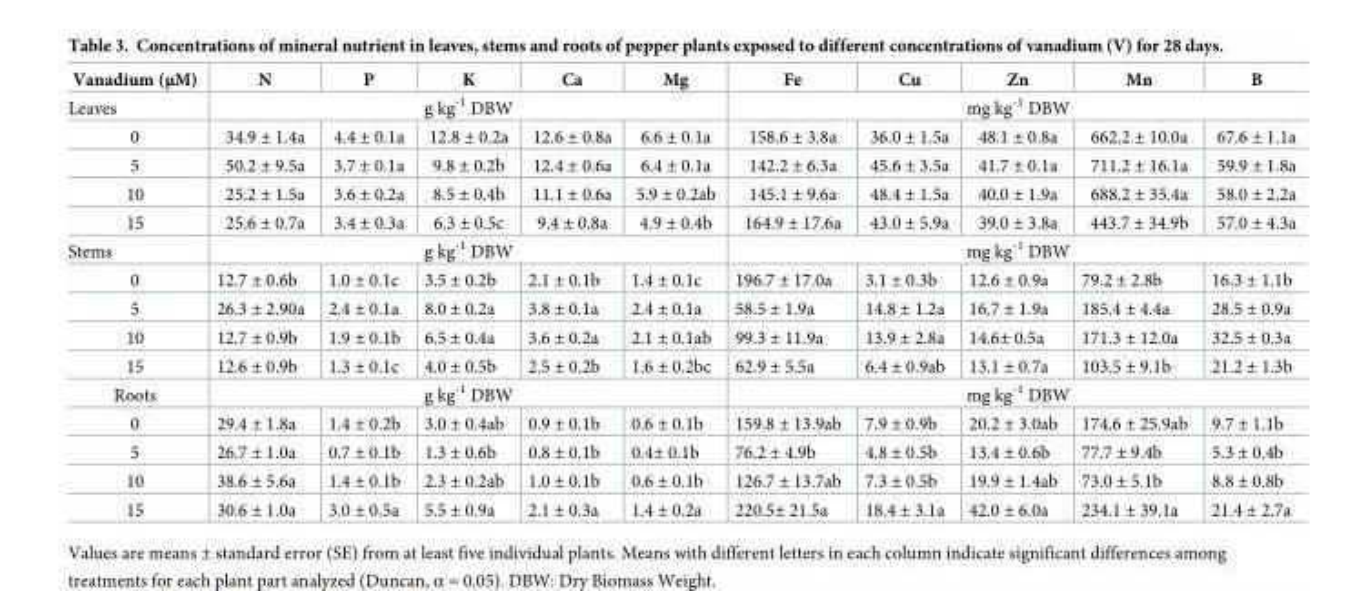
<table><thead><tr><td>Vanadium (μM)</td><td>N</td><td>P</td><td>K</td><td>Ca</td><td>Mg</td><td>Fe</td><td>Cu</td><td>Zn</td><td>Mn</td><td>B</td></tr></thead><tbody><tr><td>Leaves</td><td colspan="5">g kg<sup>-1</sup> DBW</td><td colspan="5">mg kg<sup>-1</sup> DBW</td></tr><tr><td>0</td><td>34.9 ± 1.4a</td><td>4.4 ± 0.1a</td><td>12.8 ± 0.2a</td><td>12.6 ± 0.8a</td><td>6.6 ± 0.1a</td><td>158.6 ± 3.8a</td><td>36.0 ± 1.5a</td><td>48.1 ± 0.8a</td><td>662.2 ± 10.0a</td><td>67.6 ± 1.1a</td></tr><tr><td>5</td><td>50.2 ± 9.5a</td><td>3.7 ± 0.1a</td><td>9.8 ± 0.2b</td><td>12.4 ± 0.6a</td><td>6.4 ± 0.1a</td><td>142.2 ± 6.3a</td><td>45.6 ± 3.5a</td><td>41.7 ± 0.1a</td><td>711.2 ± 16.1a</td><td>59.9 ± 1.8a</td></tr><tr><td>10</td><td>25.2 ± 1.5a</td><td>3.6 ± 0.2a</td><td>8.5 ± 0.4b</td><td>11.1 ± 0.6a</td><td>5.9 ± 0.2ab</td><td>145.1 ± 9.6a</td><td>48.4 ± 1.5a</td><td>40.0 ± 1.9a</td><td>688.2 ± 35.4a</td><td>58.0 ± 2.2a</td></tr><tr><td>15</td><td>25.6 ± 0.7a</td><td>3.4 ± 0.3a</td><td>6.3 ± 0.5c</td><td>9.4 ± 0.8a</td><td>4.9 ± 0.4b</td><td>164.9 ± 17.6a</td><td>43.0 ± 5.9a</td><td>39.0 ± 3.8a</td><td>443.7 ± 34.9b</td><td>57.0 ± 4.3a</td></tr><tr><td>Stems</td><td colspan="5">g kg<sup>-1</sup> DBW</td><td colspan="5">mg kg<sup>-1</sup> DBW</td></tr><tr><td>0</td><td>12.7 ± 0.6b</td><td>1.0 ± 0.1c</td><td>3.5 ± 0.2b</td><td>2.1 ± 0.1b</td><td>1.4 ± 0.1c</td><td>196.7 ± 17.0a</td><td>3.1 ± 0.3b</td><td>12.6 ± 0.9a</td><td>79.2 ± 2.8b</td><td>16.3 ± 1.1b</td></tr><tr><td>5</td><td>26.3 ± 2.90a</td><td>2.4 ± 0.1a</td><td>8.0 ± 0.2a</td><td>3.8 ± 0.1a</td><td>2.4 ± 0.1a</td><td>58.5 ± 1.9a</td><td>14.8 ± 1.2a</td><td>16.7 ± 1.9a</td><td>185.4 ± 4.4a</td><td>28.5 ± 0.9a</td></tr><tr><td>10</td><td>12.7 ± 0.9b</td><td>1.9 ± 0.1b</td><td>6.5 ± 0.4a</td><td>3.6 ± 0.2a</td><td>2.1 ± 0.1ab</td><td>99.3 ± 11.9a</td><td>13.9 ± 2.8a</td><td>14.6± 0.5a</td><td>171.3 ± 12.0a</td><td>32.5 ± 0.3a</td></tr><tr><td>15</td><td>12.6 ± 0.9b</td><td>1.3 ± 0.1c</td><td>4.0 ± 0.5b</td><td>2.5 ± 0.2b</td><td>1.6 ± 0.2bc</td><td>62.9 ± 5.5a</td><td>6.4 ± 0.9ab</td><td>13.1 ± 0.7a</td><td>103.5 ± 9.1b</td><td>21.2 ± 1.3b</td></tr><tr><td>Roots</td><td colspan="5">g kg<sup>-1</sup> DBW</td><td colspan="5">mg kg<sup>-1</sup> DBW</td></tr><tr><td>0</td><td>29.4 ± 1.8a</td><td>1.4 ± 0.2b</td><td>3.0 ± 0.4ab</td><td>0.9 ± 0.1b</td><td>0.6 ± 0.1b</td><td>159.8 ± 13.9ab</td><td>7.9 ± 0.9b</td><td>20.2 ± 3.0ab</td><td>174.6 ± 25.9ab</td><td>9.7 ± 1.1b</td></tr><tr><td>5</td><td>26.7 ± 1.0a</td><td>0.7 ± 0.1b</td><td>1.3 ± 0.6b</td><td>0.8 ± 0.1b</td><td>0.4± 0.1b</td><td>76.2 ± 4.9b</td><td>4.8 ± 0.5b</td><td>13.4 ± 0.6b</td><td>77.7 ± 9.4b</td><td>5.3 ± 0.4b</td></tr><tr><td>10</td><td>38.6 ± 5.6a</td><td>1.4 ± 0.1b</td><td>2.3 ± 0.2ab</td><td>1.0 ± 0.1b</td><td>0.6 ± 0.1b</td><td>126.7 ± 13.7ab</td><td>7.3 ± 0.5b</td><td>19.9 ± 1.4ab</td><td>73.0 ± 5.1b</td><td>8.8 ± 0.8b</td></tr><tr><td>15</td><td>30.6 ± 1.0a</td><td>3.0 ± 0.5a</td><td>5.5 ± 0.9a</td><td>2.1 ± 0.3a</td><td>1.4 ± 0.2a</td><td>220.5± 21.5a</td><td>18.4 ± 3.1a</td><td>42.0 ± 6.0a</td><td>234.1 ± 39.1a</td><td>21.4 ± 2.7a</td></tr></tbody></table>